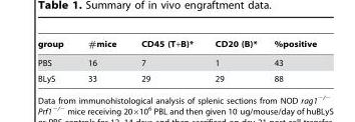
<table><thead><tr><td>group</td><td>#mice</td><td>CD45 (T+B)*</td><td>CD20 (B)*</td><td>%positive</td></tr></thead><tbody><tr><td>PBS</td><td>16</td><td>7</td><td>1</td><td>43</td></tr><tr><td>BLyS</td><td>33</td><td>29</td><td>29</td><td>88</td></tr></tbody></table>